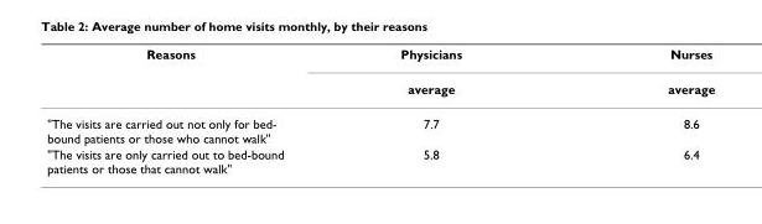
<table><thead><tr><td rowspan="2">Reasons</td><td rowspan="2">Physicians average</td><td rowspan="2">Nurses average</td></tr><tr></tr></thead><tbody><tr><td>&quot;The visits are carried out not only for bed- bound patients or those who cannot walk&quot;</td><td>7.7</td><td>8.6</td></tr><tr><td>&quot;The visits are only carried out to bed-bound patients or those that cannot walk&quot;</td><td>5.8</td><td>6.4</td></tr></tbody></table>